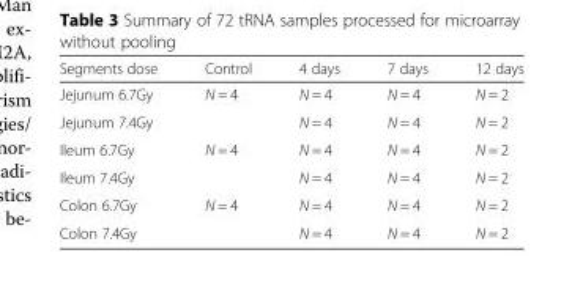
<table><thead><tr><td>Segments dose</td><td>Control</td><td>4 days</td><td>7 days</td><td>12 days</td></tr></thead><tbody><tr><td>Jejunum 6.7Gy</td><td>N = 4</td><td>N = 4</td><td>N = 4</td><td>N = 2</td></tr><tr><td colspan="2">Jejunum 7.4Gy</td><td>N = 4</td><td>N = 4</td><td>N = 2</td></tr><tr><td>Ileum 6.7Gy</td><td>N = 4</td><td>N = 4</td><td>N = 4</td><td>N = 2</td></tr><tr><td colspan="2">Ileum 7.4Gy</td><td>N = 4</td><td>N = 4</td><td>N = 2</td></tr><tr><td>Colon 6.7Gy</td><td>N = 4</td><td>N = 4</td><td>N = 4</td><td>N = 2</td></tr><tr><td colspan="2">Colon 7.4Gy</td><td>N = 4</td><td>N = 4</td><td>N = 2</td></tr></tbody></table>